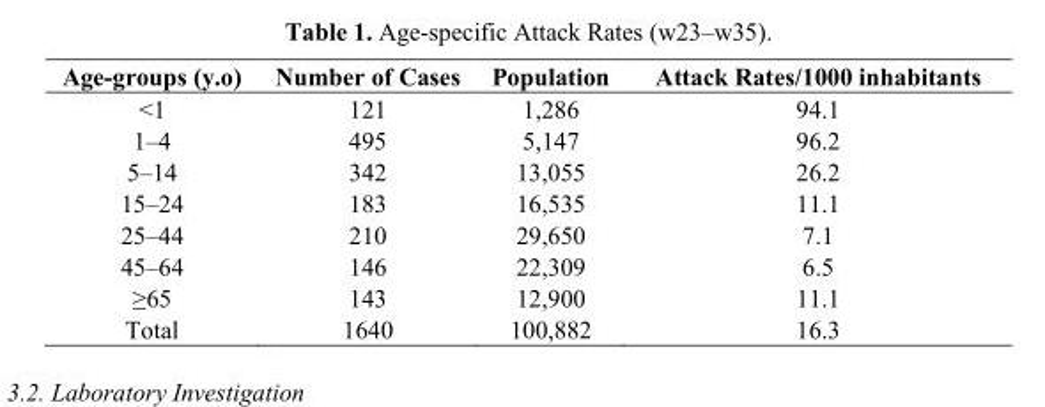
<table><thead><tr><td>Age-groups (y.o)</td><td>Number of Cases</td><td>Population</td><td>Attack Rates/1000 inhabitants</td></tr></thead><tbody><tr><td>&lt;1</td><td>121</td><td>1,286</td><td>94.1</td></tr><tr><td>1–4</td><td>495</td><td>5,147</td><td>96.2</td></tr><tr><td>5–14</td><td>342</td><td>13,055</td><td>26.2</td></tr><tr><td>15–24</td><td>183</td><td>16,535</td><td>11.1</td></tr><tr><td>25–44</td><td>210</td><td>29,650</td><td>7.1</td></tr><tr><td>45–64</td><td>146</td><td>22,309</td><td>6.5</td></tr><tr><td>≥65</td><td>143</td><td>12,900</td><td>11.1</td></tr><tr><td>Total</td><td>1640</td><td>100,882</td><td>16.3</td></tr></tbody></table>